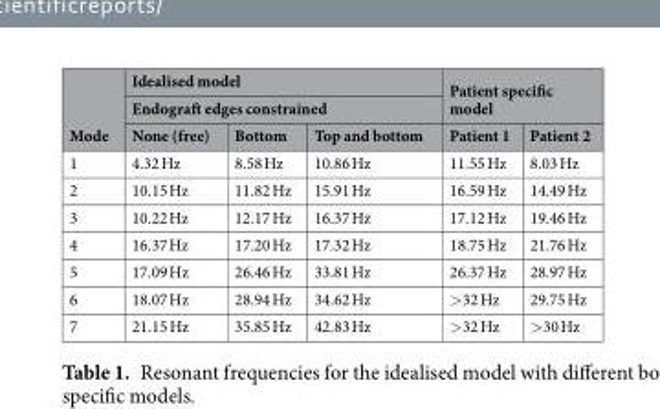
<table><thead><tr><td rowspan="3">Mode</td><td rowspan="2" colspan="3">Idealised model Endograft edges constrained</td><td rowspan="2" colspan="2">Patient specific model</td></tr><tr></tr><tr><td>None (free)</td><td>Bottom</td><td>Top and bottom</td><td>Patient 1</td><td>Patient 2</td></tr></thead><tbody><tr><td>1</td><td>4.32 Hz</td><td>8.58 Hz</td><td>10.86 Hz</td><td>11.55 Hz</td><td>8.03 Hz</td></tr><tr><td>2</td><td>10.15 Hz</td><td>11.82 Hz</td><td>15.91 Hz</td><td>16.59 Hz</td><td>14.49 Hz</td></tr><tr><td>3</td><td>10.22 Hz</td><td>12.17 Hz</td><td>16.37 Hz</td><td>17.12 Hz</td><td>19.46 Hz</td></tr><tr><td>4</td><td>16.37 Hz</td><td>17.20 Hz</td><td>17.32 Hz</td><td>18.75 Hz</td><td>21.76 Hz</td></tr><tr><td>5</td><td>17.09 Hz</td><td>26.46 Hz</td><td>33.81 Hz</td><td>26.37 Hz</td><td>28.97 Hz</td></tr><tr><td>6</td><td>18.07 Hz</td><td>28.94 Hz</td><td>34.62 Hz</td><td>&gt;32 Hz</td><td>29.75 Hz</td></tr><tr><td>7</td><td>21.15 Hz</td><td>35.85 Hz</td><td>42.83 Hz</td><td>&gt;32 Hz</td><td>&gt;30 Hz</td></tr></tbody></table>